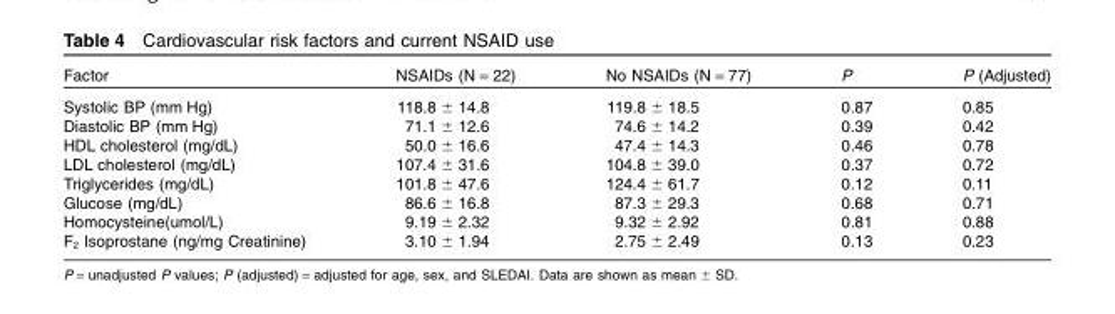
<table><thead><tr><td>Factor</td><td>NSAIDs (N = 22)</td><td>No NSAIDs (N = 77)</td><td>P</td><td>P (Adjusted)</td></tr></thead><tbody><tr><td>Systolic BP (mm Hg)</td><td>118.8 ± 14.8</td><td>119.8 ± 18.5</td><td>0.87</td><td>0.85</td></tr><tr><td>Diastolic BP (mm Hg)</td><td>71.1 ± 12.6</td><td>74.6 ± 14.2</td><td>0.39</td><td>0.42</td></tr><tr><td>HDL cholesterol (mg/dL)</td><td>50.0 ± 16.6</td><td>47.4 ± 14.3</td><td>0.46</td><td>0.78</td></tr><tr><td>LDL cholesterol (mg/dL)</td><td>107.4 ± 31.6</td><td>104.8 ± 39.0</td><td>0.37</td><td>0.72</td></tr><tr><td>Triglycerides (mg/dL)</td><td>101.8 ± 47.6</td><td>124.4 ± 61.7</td><td>0.12</td><td>0.11</td></tr><tr><td>Glucose (mg/dL)</td><td>86.6 ± 16.8</td><td>87.3 ± 29.3</td><td>0.68</td><td>0.71</td></tr><tr><td>Homocysteine(umol/L)</td><td>9.19 ± 2.32</td><td>9.32 ± 2.92</td><td>0.81</td><td>0.88</td></tr><tr><td>F<sub>2</sub> Isoprostane (ng/mg Creatinine)</td><td>3.10 ± 1.94</td><td>2.75 ± 2.49</td><td>0.13</td><td>0.23</td></tr></tbody></table>